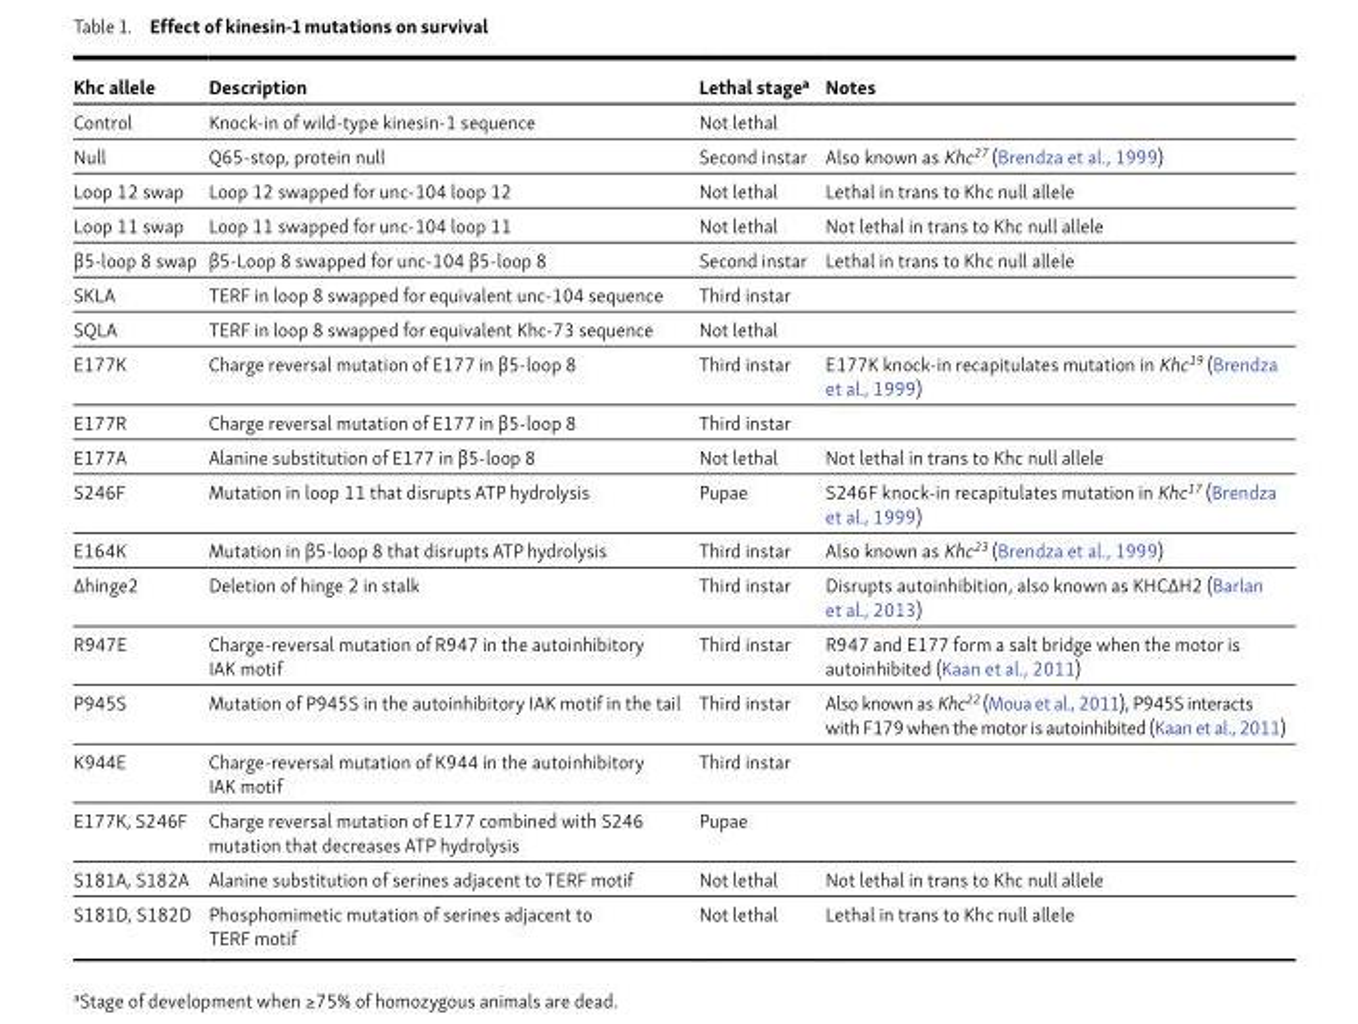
<table><thead><tr><td>Khc allele</td><td>Description</td><td>Lethal stage<sup>a</sup></td><td>Notes</td></tr></thead><tbody><tr><td>Control</td><td>Knock-in of wild-type kinesin-1 sequence</td><td>Not lethal</td><td></td></tr><tr><td>Null</td><td>Q65-stop, protein null</td><td>Second instar</td><td>Also known as Khc<sup>27</sup> (Brendza et al., 1999)</td></tr><tr><td>Loop 12 swap</td><td>Loop 12 swapped for unc-104 loop 12</td><td>Not lethal</td><td>Lethal in trans to Khc null allele</td></tr><tr><td>Loop 11 swap</td><td>Loop 11 swapped for unc-104 loop 11</td><td>Not lethal</td><td>Not lethal in trans to Khc null allele</td></tr><tr><td>β5-loop 8 swap</td><td>β5-Loop 8 swapped for unc-104 β5-loop 8</td><td>Second instar</td><td>Lethal in trans to Khc null allele</td></tr><tr><td>SKLA</td><td>TERF in loop 8 swapped for equivalent unc-104 sequence</td><td>Third instar</td><td></td></tr><tr><td>SQLA</td><td>TERF in loop 8 swapped for equivalent Khc-73 sequence</td><td>Not lethal</td><td></td></tr><tr><td>E177K</td><td>Charge reversal mutation of E177 in β5-loop 8</td><td>Third instar</td><td>E177K knock-in recapitulates mutation in Khc<sup>19</sup> (Brendza et al., 1999)</td></tr><tr><td>E177R</td><td>Charge reversal mutation of E177 in β5-loop 8</td><td>Third instar</td><td></td></tr><tr><td>E177A</td><td>Alanine substitution of E177 in β5-loop 8</td><td>Not lethal</td><td>Not lethal in trans to Khc null allele</td></tr><tr><td>S246F</td><td>Mutation in loop 11 that disrupts ATP hydrolysis</td><td>Pupae</td><td>S246F knock-in recapitulates mutation in Khc<sup>17</sup> (Brendza et al., 1999)</td></tr><tr><td>E164K</td><td>Mutation in β5-loop 8 that disrupts ATP hydrolysis</td><td>Third instar</td><td>Also known as Khc<sup>23</sup> (Brendza et al., 1999)</td></tr><tr><td>Δhinge2</td><td>Deletion of hinge 2 in stalk</td><td>Third instar</td><td>Disrupts autoinhibition, also known as KHCΔH2 (Barlan et al., 2013)</td></tr><tr><td>R947E</td><td>Charge-reversal mutation of R947 in the autoinhibitory IAK motif</td><td>Third instar</td><td>R947 and E177 form a salt bridge when the motor is autoinhibited (Kaan et al., 2011)</td></tr><tr><td>P945S</td><td>Mutation of P945S in the autoinhibitory IAK motif in the tail</td><td>Third instar</td><td>Also known as Khc<sup>22</sup> (Moua et al., 2011), P945S interacts with F179 when the motor is autoinhibited (Kaan et al., 2011)</td></tr><tr><td>K944E</td><td>Charge-reversal mutation of K944 in the autoinhibitory IAK motif</td><td>Third instar</td><td></td></tr><tr><td>E177K, S246F</td><td>Charge reversal mutation of E177 combined with S246 mutation that decreases ATP hydrolysis</td><td>Pupae</td><td></td></tr><tr><td>S181A, S182A</td><td>Alanine substitution of serines adjacent to TERF motif</td><td>Not lethal</td><td>Not lethal in trans to Khc null allele</td></tr><tr><td>S181D, S182D</td><td>Phosphomimetic mutation of serines adjacent to TERF motif</td><td>Not lethal</td><td>Lethal in trans to Khc null allele</td></tr></tbody></table>